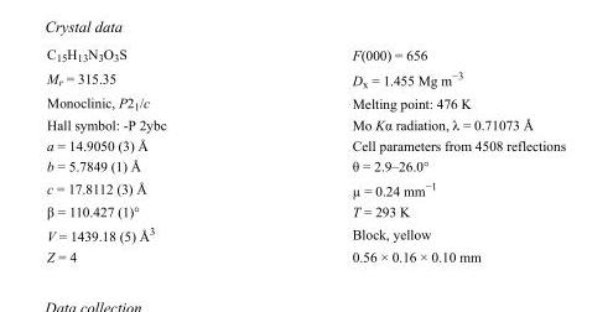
<table><tbody><tr><td>C<sub>15</sub>H<sub>13</sub>N<sub>3</sub>O<sub>3</sub>S</td><td>F(000) = 656</td></tr><tr><td>M<sub>r</sub> = 315.35</td><td>D<sub>x</sub> = 1.455 Mg m<sup>−3</sup></td></tr><tr><td>Monoclinic, P2<sub>1</sub>/c</td><td>Melting point: 476 K</td></tr><tr><td>Hall symbol: -P 2ybc</td><td>Mo Kα radiation, λ = 0.71073 Å</td></tr><tr><td>a = 14.9050 (3) Å</td><td>Cell parameters from 4508 reflections</td></tr><tr><td>b = 5.7849 (1) Å</td><td>θ = 2.9–26.0°</td></tr><tr><td>c = 17.8112 (3) Å</td><td>µ = 0.24 mm<sup>−1</sup></td></tr><tr><td>β = 110.427 (1)°</td><td>T = 293 K</td></tr><tr><td>V = 1439.18 (5) Å<sup>3</sup></td><td>Block, yellow</td></tr><tr><td>Z = 4</td><td>0.56 × 0.16 × 0.10 mm</td></tr></tbody></table>